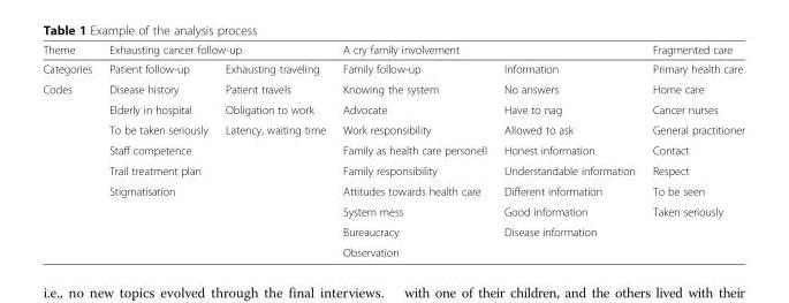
<table><thead><tr><td rowspan="2">Theme Categories</td><td colspan="2">Exhausting cancer follow-up</td><td colspan="2">A cry family involvement</td><td rowspan="2">Fragmented care Primary health care</td></tr><tr><td>Patient follow-up</td><td>Exhausting traveling</td><td>Family follow-up</td><td>Information</td></tr></thead><tbody><tr><td rowspan="9">Codes</td><td>Disease history</td><td>Patient travels</td><td>Knowing the system</td><td>No answers</td><td>Home care</td></tr><tr><td>Elderly in hospital</td><td>Obligation to work</td><td>Advocate</td><td>Have to nag</td><td>Cancer nurses</td></tr><tr><td>To be taken seriously</td><td>Latency, waiting time</td><td>Work responsibility</td><td>Allowed to ask</td><td>General practitioner</td></tr><tr><td>Staff competence</td><td></td><td>Family as health care personell</td><td>Honest information</td><td>Contact</td></tr><tr><td>Trail treatment plan</td><td></td><td>Family responsibility</td><td>Understandable information</td><td>Respect</td></tr><tr><td>Stigmatisation</td><td></td><td>Attitudes towards health care</td><td>Different information</td><td>To be seen</td></tr><tr><td></td><td></td><td>System mess</td><td>Good information</td><td>Taken seriously</td></tr><tr><td></td><td></td><td>Bureaucracy</td><td>Disease information</td><td></td></tr><tr><td></td><td></td><td>Observation</td><td></td><td></td></tr></tbody></table>